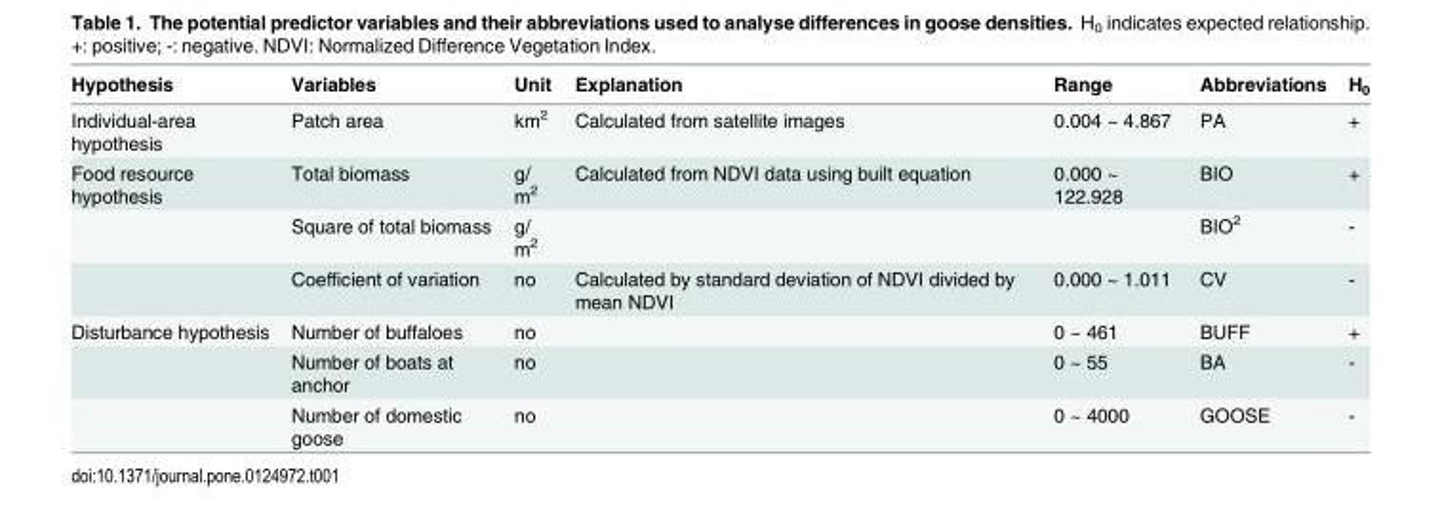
<table><thead><tr><td>Hypothesis</td><td>Variables</td><td>Unit</td><td>Explanation</td><td>Range</td><td>Abbreviations</td><td>H<sub>0</sub></td></tr></thead><tbody><tr><td>Individual-area hypothesis</td><td>Patch area</td><td>km<sup>2</sup></td><td>Calculated from satellite images</td><td>0.004 ~ 4.867</td><td>PA</td><td>+</td></tr><tr><td rowspan="3">Food resource hypothesis</td><td>Total biomass</td><td>g/ m<sup>2</sup></td><td>Calculated from NDVI data using built equation</td><td>0.000 ~ 122.928</td><td>BIO</td><td>+</td></tr><tr><td>Square of total biomass</td><td>g/ m<sup>2</sup></td><td></td><td></td><td>BIO<sup>2</sup></td><td>-</td></tr><tr><td>Coefficient of variation</td><td>no</td><td>Calculated by standard deviation of NDVI divided by mean NDVI</td><td>0.000 ~ 1.011</td><td>CV</td><td>-</td></tr><tr><td rowspan="3">Disturbance hypothesis</td><td>Number of buffaloes</td><td>no</td><td></td><td>0 ~ 461</td><td>BUFF</td><td>+</td></tr><tr><td>Number of boats at anchor</td><td>no</td><td></td><td>0 ~ 55</td><td>BA</td><td>-</td></tr><tr><td>Number of domestic goose</td><td>no</td><td></td><td>0 ~ 4000</td><td>GOOSE</td><td>-</td></tr></tbody></table>